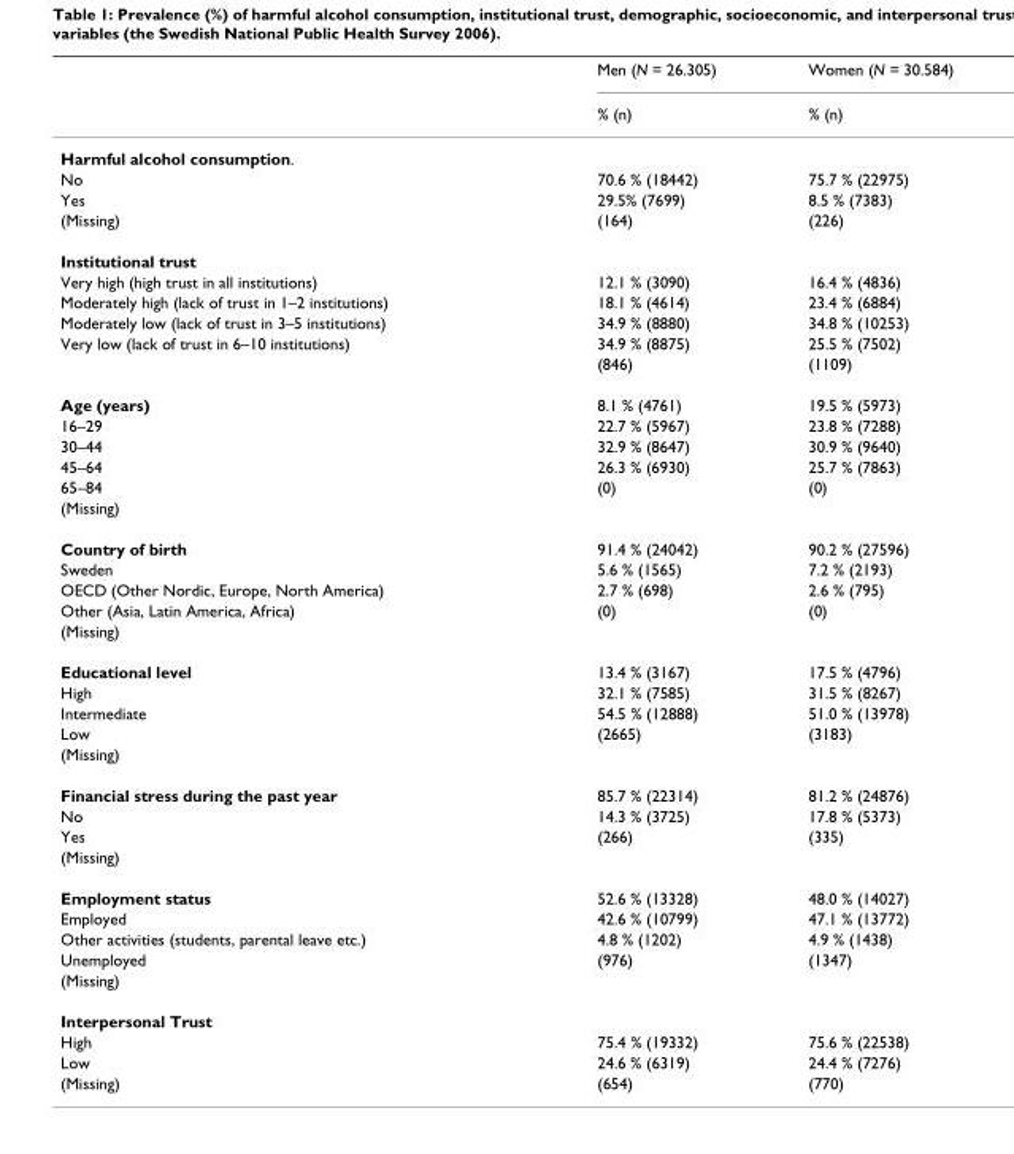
<table><thead><tr><td rowspan="2"></td><td rowspan="2">Men (N = 26.305) % (n)</td><td rowspan="2">Women (N = 30.584) % (n)</td></tr><tr></tr></thead><tbody><tr><td colspan="3">Harmful alcohol consumption.</td></tr><tr><td>No</td><td>70.6 % (18442)</td><td>75.7 % (22975)</td></tr><tr><td>Yes</td><td>29.5% (7699)</td><td>8.5 % (7383)</td></tr><tr><td>(Missing)</td><td>(164)</td><td>(226)</td></tr><tr><td colspan="3">Institutional trust</td></tr><tr><td>Very high (high trust in all institutions)</td><td>12.1 % (3090)</td><td>16.4 % (4836)</td></tr><tr><td>Moderately high (lack of trust in 1–2 institutions)</td><td>18.1 % (4614)</td><td>23.4 % (6884)</td></tr><tr><td>Moderately low (lack of trust in 3–5 institutions)</td><td>34.9 % (8880)</td><td>34.8 % (10253)</td></tr><tr><td rowspan="2">Very low (lack of trust in 6–10 institutions)</td><td>34.9 % (8875)</td><td>25.5 % (7502)</td></tr><tr><td>(846)</td><td>(1109)</td></tr><tr><td>Age (years)</td><td>8.1 % (4761)</td><td>19.5 % (5973)</td></tr><tr><td>16–29</td><td>22.7 % (5967)</td><td>23.8 % (7288)</td></tr><tr><td>30–44</td><td>32.9 % (8647)</td><td>30.9 % (9640)</td></tr><tr><td>45–64</td><td>26.3 % (6930)</td><td>25.7 % (7863)</td></tr><tr><td>65–84</td><td>(0)</td><td>(0)</td></tr><tr><td colspan="3">(Missing)</td></tr><tr><td>Country of birth</td><td>91.4 % (24042)</td><td>90.2 % (27596)</td></tr><tr><td>Sweden</td><td>5.6 % (1565)</td><td>7.2 % (2193)</td></tr><tr><td>OECD (Other Nordic, Europe, North America)</td><td>2.7 % (698)</td><td>2.6 % (795)</td></tr><tr><td>Other (Asia, Latin America, Africa)</td><td>(0)</td><td>(0)</td></tr><tr><td colspan="3">(Missing)</td></tr><tr><td>Educational level</td><td>13.4 % (3167)</td><td>17.5 % (4796)</td></tr><tr><td>High</td><td>32.1 % (7585)</td><td>31.5 % (8267)</td></tr><tr><td>Intermediate</td><td>54.5 % (12888)</td><td>51.0 % (13978)</td></tr><tr><td>Low</td><td>(2665)</td><td>(3183)</td></tr><tr><td colspan="3">(Missing)</td></tr><tr><td>Financial stress during the past year</td><td>85.7 % (22314)</td><td>81.2 % (24876)</td></tr><tr><td>No</td><td>14.3 % (3725)</td><td>17.8 % (5373)</td></tr><tr><td>Yes</td><td>(266)</td><td>(335)</td></tr><tr><td colspan="3">(Missing)</td></tr><tr><td>Employment status</td><td>52.6 % (13328)</td><td>48.0 % (14027)</td></tr><tr><td>Employed</td><td>42.6 % (10799)</td><td>47.1 % (13772)</td></tr><tr><td>Other activities (students, parental leave etc.)</td><td>4.8 % (1202)</td><td>4.9 % (1438)</td></tr><tr><td>Unemployed</td><td>(976)</td><td>(1347)</td></tr><tr><td colspan="3">(Missing)</td></tr><tr><td colspan="3">Interpersonal Trust</td></tr><tr><td>High</td><td>75.4 % (19332)</td><td>75.6 % (22538)</td></tr><tr><td>Low</td><td>24.6 % (6319)</td><td>24.4 % (7276)</td></tr><tr><td>(Missing)</td><td>(654)</td><td>(770)</td></tr></tbody></table>